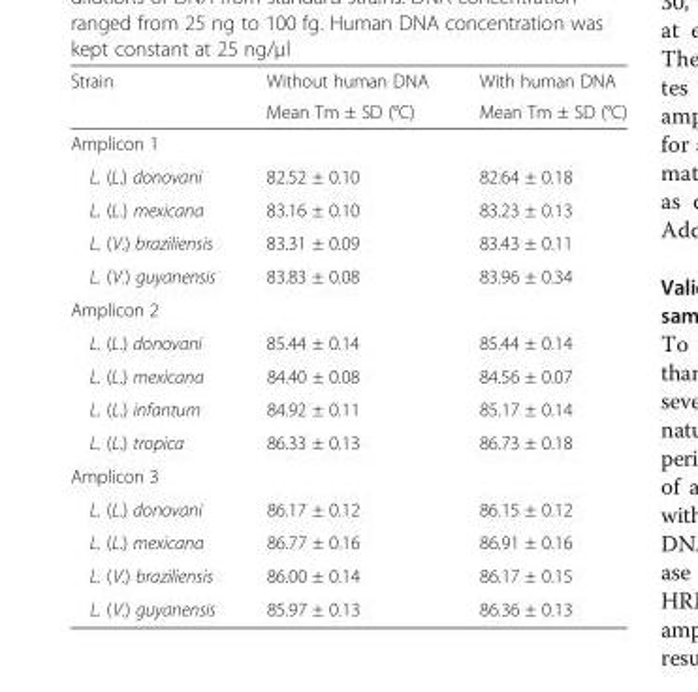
<table><thead><tr><td rowspan="2">Strain</td><td rowspan="2">Without human DNA Mean Tm ± SD (°C)</td><td rowspan="2">With human DNA Mean Tm ± SD (°C)</td></tr><tr></tr></thead><tbody><tr><td colspan="3">Amplicon 1</td></tr><tr><td>L. (L.) donovani</td><td>82.52 ± 0.10</td><td>82.64 ± 0.18</td></tr><tr><td>L. (L.) mexicana</td><td>83.16 ± 0.10</td><td>83.23 ± 0.13</td></tr><tr><td>L. (V.) braziliensis</td><td>83.31 ± 0.09</td><td>83.43 ± 0.11</td></tr><tr><td>L. (V.) guyanensis</td><td>83.83 ± 0.08</td><td>83.96 ± 0.34</td></tr><tr><td colspan="3">Amplicon 2</td></tr><tr><td>L. (L.) donovani</td><td>85.44 ± 0.14</td><td>85.44 ± 0.14</td></tr><tr><td>L. (L.) mexicana</td><td>84.40 ± 0.08</td><td>84.56 ± 0.07</td></tr><tr><td>L. (L.) infantum</td><td>84.92 ± 0.11</td><td>85.17 ± 0.14</td></tr><tr><td>L. (L.) tropica</td><td>86.33 ± 0.13</td><td>86.73 ± 0.18</td></tr><tr><td colspan="3">Amplicon 3</td></tr><tr><td>L. (L.) donovani</td><td>86.17 ± 0.12</td><td>86.15 ± 0.12</td></tr><tr><td>L. (L.) mexicana</td><td>86.77 ± 0.16</td><td>86.91 ± 0.16</td></tr><tr><td>L. (V.) braziliensis</td><td>86.00 ± 0.14</td><td>86.17 ± 0.15</td></tr><tr><td>L. (V.) guyanensis</td><td>85.97 ± 0.13</td><td>86.36 ± 0.13</td></tr></tbody></table>